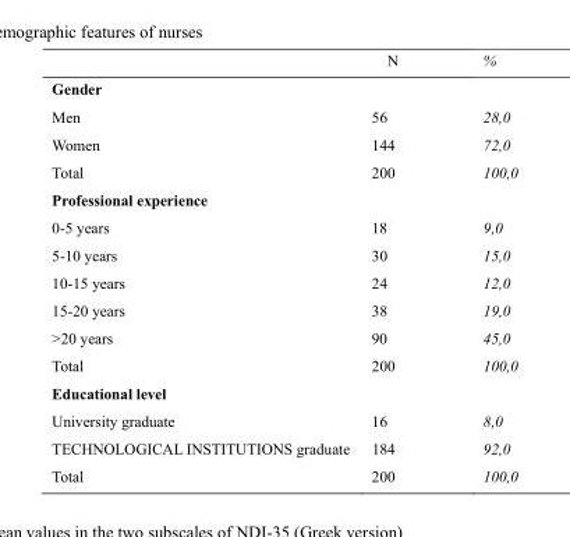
<table><thead><tr><td></td><td>N</td><td>%</td></tr></thead><tbody><tr><td colspan="3">Gender</td></tr><tr><td>Men</td><td>56</td><td>28,0</td></tr><tr><td>Women</td><td>144</td><td>72,0</td></tr><tr><td>Total</td><td>200</td><td>100,0</td></tr><tr><td colspan="3">Professional experience</td></tr><tr><td>0-5 years</td><td>18</td><td>9,0</td></tr><tr><td>5-10 years</td><td>30</td><td>15,0</td></tr><tr><td>10-15 years</td><td>24</td><td>12,0</td></tr><tr><td>15-20 years</td><td>38</td><td>19,0</td></tr><tr><td>&gt;20 years</td><td>90</td><td>45,0</td></tr><tr><td>Total</td><td>200</td><td>100,0</td></tr><tr><td colspan="3">Educational level</td></tr><tr><td>University graduate</td><td>16</td><td>8,0</td></tr><tr><td>ΤECHNOLOGICAL INSTITUTIONS graduate</td><td>184</td><td>92,0</td></tr><tr><td>Total</td><td>200</td><td>100,0</td></tr></tbody></table>